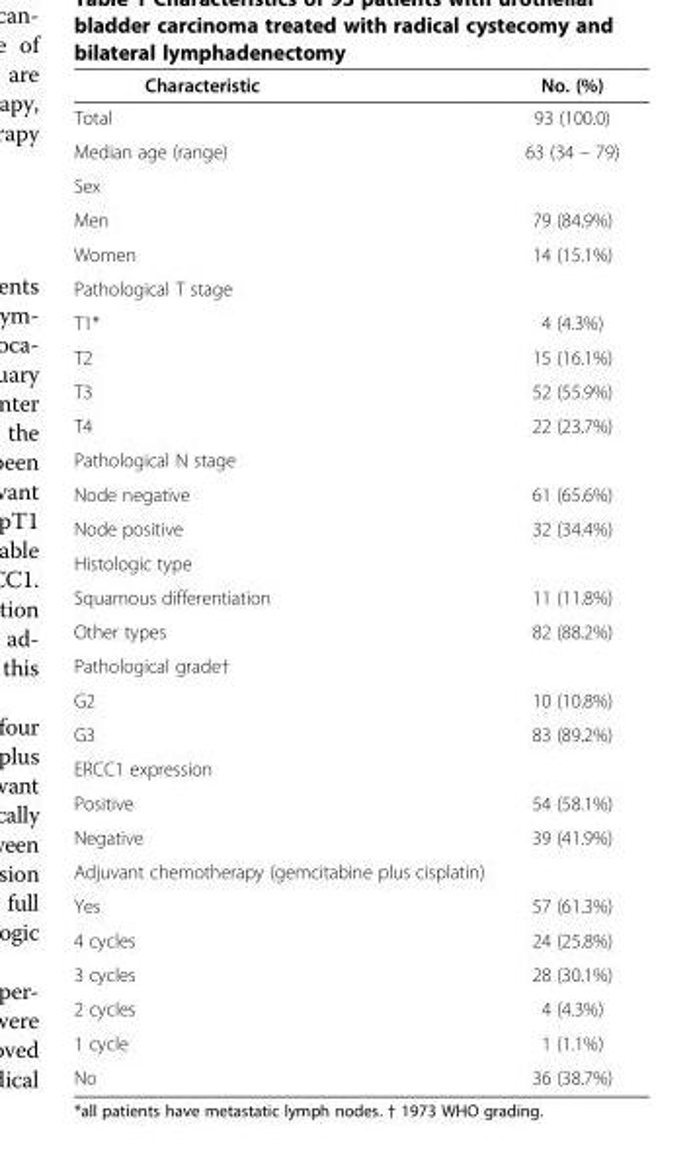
<table><thead><tr><td>Characteristic</td><td>No. (%)</td></tr></thead><tbody><tr><td>Total</td><td>93 (100.0)</td></tr><tr><td>Median age (range)</td><td>63 (34 – 79)</td></tr><tr><td colspan="2">Sex</td></tr><tr><td>Men</td><td>79 (84.9%)</td></tr><tr><td>Women</td><td>14 (15.1%)</td></tr><tr><td colspan="2">Pathological T stage</td></tr><tr><td>T1*</td><td>4 (4.3%)</td></tr><tr><td>T2</td><td>15 (16.1%)</td></tr><tr><td>T3</td><td>52 (55.9%)</td></tr><tr><td>T4</td><td>22 (23.7%)</td></tr><tr><td colspan="2">Pathological N stage</td></tr><tr><td>Node negative</td><td>61 (65.6%)</td></tr><tr><td>Node positive</td><td>32 (34.4%)</td></tr><tr><td colspan="2">Histologic type</td></tr><tr><td>Squamous differentiation</td><td>11 (11.8%)</td></tr><tr><td>Other types</td><td>82 (88.2%)</td></tr><tr><td colspan="2">Pathological grade†</td></tr><tr><td>G2</td><td>10 (10.8%)</td></tr><tr><td>G3</td><td>83 (89.2%)</td></tr><tr><td colspan="2">ERCC1 expression</td></tr><tr><td>Positive</td><td>54 (58.1%)</td></tr><tr><td>Negative</td><td>39 (41.9%)</td></tr><tr><td colspan="2">Adjuvant chemotherapy (gemcitabine plus cisplatin)</td></tr><tr><td>Yes</td><td>57 (61.3%)</td></tr><tr><td>4 cycles</td><td>24 (25.8%)</td></tr><tr><td>3 cycles</td><td>28 (30.1%)</td></tr><tr><td>2 cycles</td><td>4 (4.3%)</td></tr><tr><td>1 cycle</td><td>1 (1.1%)</td></tr><tr><td>No</td><td>36 (38.7%)</td></tr></tbody></table>